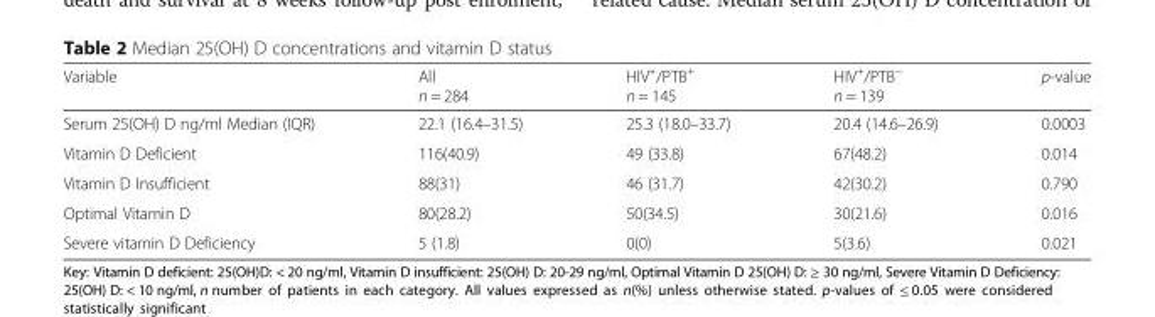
<table><thead><tr><td>Variable</td><td>All n = 284</td><td>HIV<sup>+</sup>/PTB<sup>+</sup> n = 145</td><td>HIV<sup>+</sup>/PTB<sup>−</sup> n = 139</td><td>p-value</td></tr></thead><tbody><tr><td>Serum 25(OH) D ng/ml Median (IQR)</td><td>22.1 (16.4–31.5)</td><td>25.3 (18.0–33.7)</td><td>20.4 (14.6–26.9)</td><td>0.0003</td></tr><tr><td>Vitamin D Deficient</td><td>116(40.9)</td><td>49 (33.8)</td><td>67(48.2)</td><td>0.014</td></tr><tr><td>Vitamin D Insufficient</td><td>88(31)</td><td>46 (31.7)</td><td>42(30.2)</td><td>0.790</td></tr><tr><td>Optimal Vitamin D</td><td>80(28.2)</td><td>50(34.5)</td><td>30(21.6)</td><td>0.016</td></tr><tr><td>Severe vitamin D Deficiency</td><td>5 (1.8)</td><td>0(0)</td><td>5(3.6)</td><td>0.021</td></tr></tbody></table>